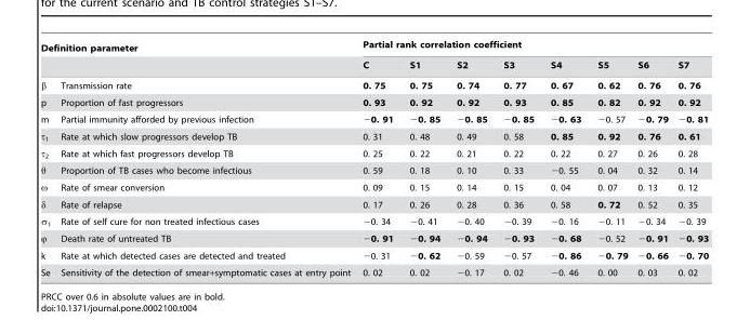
<table><thead><tr><td colspan="2">Definition parameter</td><td colspan="8">Partial rank correlation coefficient</td></tr><tr><td></td><td></td><td>C</td><td>S1</td><td>S2</td><td>S3</td><td>S4</td><td>S5</td><td>S6</td><td>S7</td></tr></thead><tbody><tr><td>β</td><td>Transmission rate</td><td>0. 75</td><td>0. 75</td><td>0. 74</td><td>0. 77</td><td>0. 67</td><td>0. 62</td><td>0. 76</td><td>0. 76</td></tr><tr><td>p</td><td>Proportion of fast progressors</td><td>0. 93</td><td>0. 92</td><td>0. 92</td><td>0. 93</td><td>0. 85</td><td>0. 82</td><td>0. 92</td><td>0. 92</td></tr><tr><td>m</td><td>Partial immunity afforded by previous infection</td><td>−0. 91</td><td>−0. 85</td><td>−0. 85</td><td>−0. 85</td><td>−0. 63</td><td>−0. 57</td><td>−0. 79</td><td>−0. 81</td></tr><tr><td>τ<sub>1</sub></td><td>Rate at which slow progressors develop TB</td><td>0. 31</td><td>0. 48</td><td>0. 49</td><td>0. 58</td><td>0. 85</td><td>0. 92</td><td>0. 76</td><td>0. 61</td></tr><tr><td>τ<sub>2</sub></td><td>Rate at which fast progressors develop TB</td><td>0. 25</td><td>0. 22</td><td>0. 21</td><td>0. 22</td><td>0. 22</td><td>0. 27</td><td>0. 26</td><td>0. 28</td></tr><tr><td>θ</td><td>Proportion of TB cases who become infectious</td><td>0. 59</td><td>0. 18</td><td>0. 10</td><td>0. 33</td><td>−0. 55</td><td>0. 04</td><td>0. 32</td><td>0. 14</td></tr><tr><td>ω</td><td>Rate of smear conversion</td><td>0. 09</td><td>0. 15</td><td>0. 14</td><td>0. 15</td><td>0. 04</td><td>0. 07</td><td>0. 13</td><td>0. 12</td></tr><tr><td>δ</td><td>Rate of relapse</td><td>0. 17</td><td>0. 26</td><td>0. 28</td><td>0. 36</td><td>0. 58</td><td>0. 72</td><td>0. 52</td><td>0. 35</td></tr><tr><td>σ<sub>1</sub></td><td>Rate of self cure for non treated infectious cases</td><td>−0. 34</td><td>−0. 41</td><td>−0. 40</td><td>−0. 39</td><td>−0. 16</td><td>−0. 11</td><td>−0. 34</td><td>−0. 39</td></tr><tr><td>ϕ</td><td>Death rate of untreated TB</td><td>−0. 91</td><td>−0. 94</td><td>−0. 94</td><td>−0. 93</td><td>−0. 68</td><td>−0. 52</td><td>−0. 91</td><td>−0. 93</td></tr><tr><td>k</td><td>Rate at which detected cases are detected and treated</td><td>−0. 31</td><td>−0. 62</td><td>−0. 59</td><td>−0. 57</td><td>−0. 86</td><td>−0. 79</td><td>−0. 66</td><td>−0. 70</td></tr><tr><td>Se</td><td>Sensitivity of the detection of smear+symptomatic cases at entry point</td><td>0. 02</td><td>0. 02</td><td>−0. 17</td><td>0. 02</td><td>−0. 46</td><td>0. 00</td><td>0. 03</td><td>0. 02</td></tr></tbody></table>